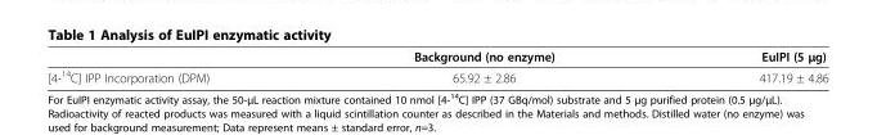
<table><thead><tr><td></td><td>Background (no enzyme)</td><td>EuIPI (5 μg)</td></tr></thead><tbody><tr><td>[4-<sup>14</sup>C] IPP Incorporation (DPM)</td><td>65.92 ± 2.86</td><td>417.19 ± 4.86</td></tr></tbody></table>